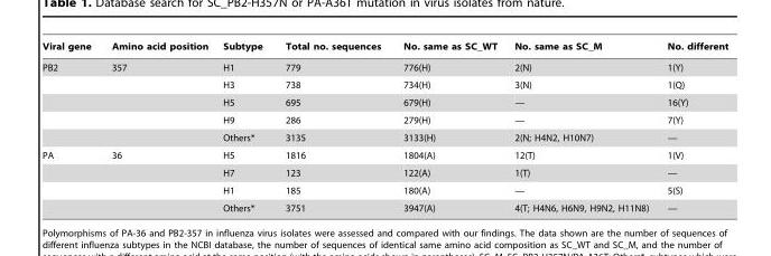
<table><thead><tr><td>Viral gene</td><td>Amino acid position</td><td>Subtype</td><td>Total no. sequences</td><td>No. same as SC_WT</td><td>No. same as SC_M</td><td>No. different</td></tr></thead><tbody><tr><td rowspan="5">PB2</td><td>357</td><td>H1</td><td>779</td><td>776(H)</td><td>2(N)</td><td>1(Y)</td></tr><tr><td></td><td>H3</td><td>738</td><td>734(H)</td><td>3(N)</td><td>1(Q)</td></tr><tr><td></td><td>H5</td><td>695</td><td>679(H)</td><td>—</td><td>16(Y)</td></tr><tr><td></td><td>H9</td><td>286</td><td>279(H)</td><td>—</td><td>7(Y)</td></tr><tr><td></td><td>Others*</td><td>3135</td><td>3133(H)</td><td>2(N; H4N2, H10N7)</td><td>—</td></tr><tr><td rowspan="4">PA</td><td>36</td><td>H5</td><td>1816</td><td>1804(A)</td><td>12(T)</td><td>1(V)</td></tr><tr><td></td><td>H7</td><td>123</td><td>122(A)</td><td>1(T)</td><td>—</td></tr><tr><td></td><td>H1</td><td>185</td><td>180(A)</td><td>—</td><td>5(S)</td></tr><tr><td></td><td>Others*</td><td>3751</td><td>3947(A)</td><td>4(T; H4N6, H6N9, H9N2, H11N8)</td><td>—</td></tr></tbody></table>